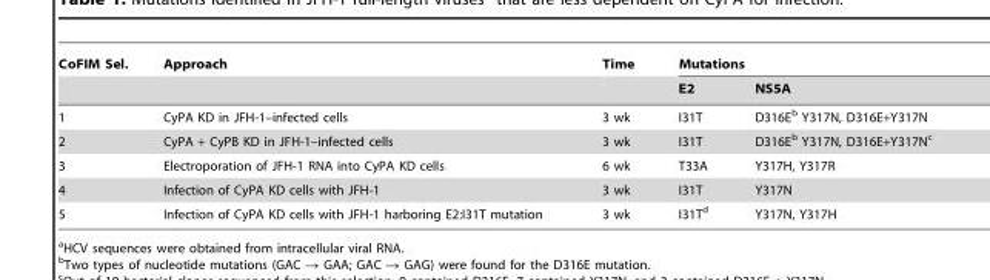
<table><thead><tr><td rowspan="2">CoFIM Sel.</td><td rowspan="2">Approach</td><td rowspan="2">Time</td><td colspan="2">Mutations</td></tr><tr><td>E2</td><td>NS5A</td></tr></thead><tbody><tr><td>1</td><td>CyPA KD in JFH-1–infected cells</td><td>3 wk</td><td>I31T</td><td>D316E<sup>b</sup> Y317N, D316E+Y317N</td></tr><tr><td>2</td><td>CyPA + CyPB KD in JFH-1–infected cells</td><td>3 wk</td><td>I31T</td><td>D316E<sup>b</sup> Y317N, D316E+Y317N<sup>c</sup></td></tr><tr><td>3</td><td>Electroporation of JFH-1 RNA into CyPA KD cells</td><td>6 wk</td><td>T33A</td><td>Y317H, Y317R</td></tr><tr><td>4</td><td>Infection of CyPA KD cells with JFH-1</td><td>3 wk</td><td>I31T</td><td>Y317N</td></tr><tr><td>5</td><td>Infection of CyPA KD cells with JFH-1 harboring E2:I31T mutation</td><td>3 wk</td><td>I31T<sup>d</sup></td><td>Y317N, Y317H</td></tr></tbody></table>